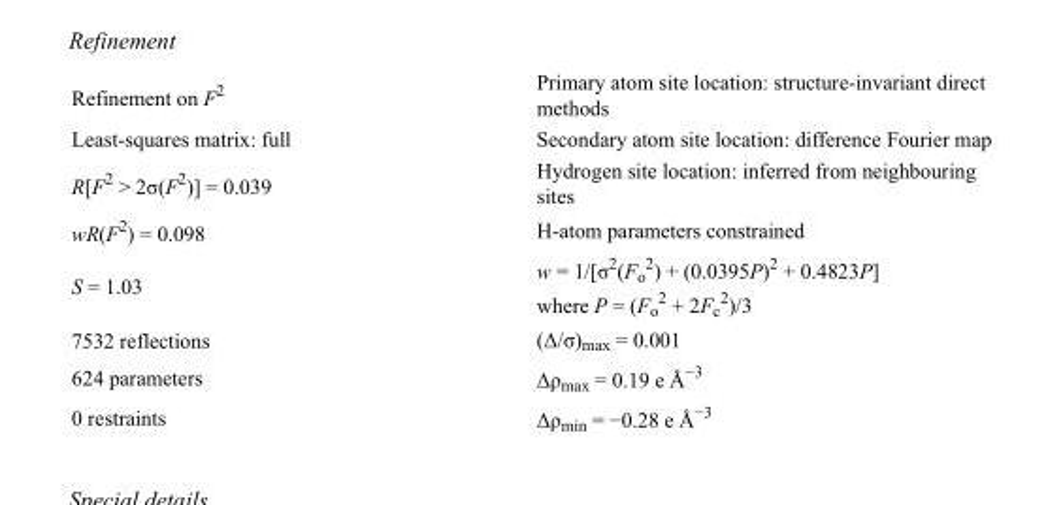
<table><tbody><tr><td>Refinement on F<sup>2</sup></td><td>Primary atom site location: structure-invariant direct methods</td></tr><tr><td>Least-squares matrix: full</td><td>Secondary atom site location: difference Fourier map</td></tr><tr><td>R[F<sup>2</sup> &gt; 2σ(F<sup>2</sup>)] = 0.039</td><td>Hydrogen site location: inferred from neighbouring sites</td></tr><tr><td>wR(F<sup>2</sup>) = 0.098</td><td>H-atom parameters constrained</td></tr><tr><td>S = 1.03</td><td>w = 1/[σ<sup>2</sup>(F<sub>o</sub> <sup>2</sup>) + (0.0395P)<sup>2</sup> + 0.4823P] where P = (F<sub>o</sub> <sup>2</sup> + 2F<sub>c</sub> <sup>2</sup>)/3</td></tr><tr><td>7532 reflections</td><td>(Δ/σ)<sub>max</sub> = 0.001</td></tr><tr><td>624 parameters</td><td>Δρ<sub>max</sub> = 0.19 e Å<sup>−3</sup></td></tr><tr><td>0 restraints</td><td>Δρ<sub>min</sub> = −0.28 e Å<sup>−3</sup></td></tr></tbody></table>